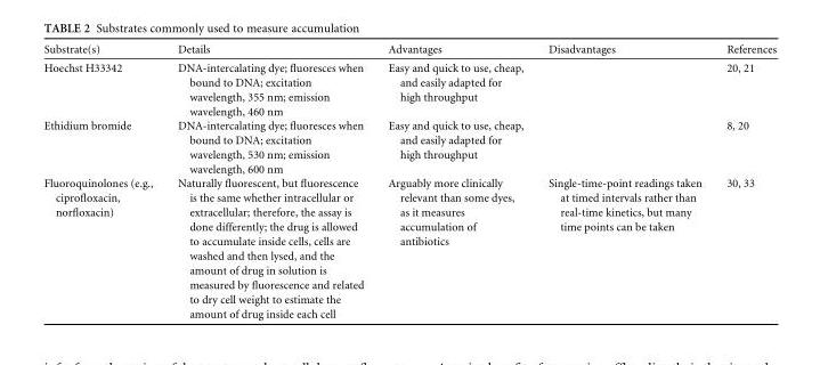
<table><thead><tr><td>Substrate(s)</td><td>Details</td><td>Advantages</td><td>Disadvantages</td><td>References</td></tr></thead><tbody><tr><td>Hoechst H33342</td><td>DNA-intercalating dye; fluoresces when bound to DNA; excitation wavelength, 355 nm; emission wavelength, 460 nm</td><td>Easy and quick to use, cheap, and easily adapted for high throughput</td><td></td><td>20, 21</td></tr><tr><td>Ethidium bromide</td><td>DNA-intercalating dye; fluoresces when bound to DNA; excitation wavelength, 530 nm; emission wavelength, 600 nm</td><td>Easy and quick to use, cheap, and easily adapted for high throughput</td><td></td><td>8, 20</td></tr><tr><td>Fluoroquinolones (e.g., ciprofloxacin, norfloxacin)</td><td>Naturally fluorescent, but fluorescence is the same whether intracellular or extracellular; therefore, the assay is done differently; the drug is allowed to accumulate inside cells, cells are washed and then lysed, and the amount of drug in solution is measured by fluorescence and related to dry cell weight to estimate the amount of drug inside each cell</td><td>Arguably more clinically relevant than some dyes, as it measures accumulation of antibiotics</td><td>Single-time-point readings taken at timed intervals rather than real-time kinetics, but many time points can be taken</td><td>30, 33</td></tr></tbody></table>